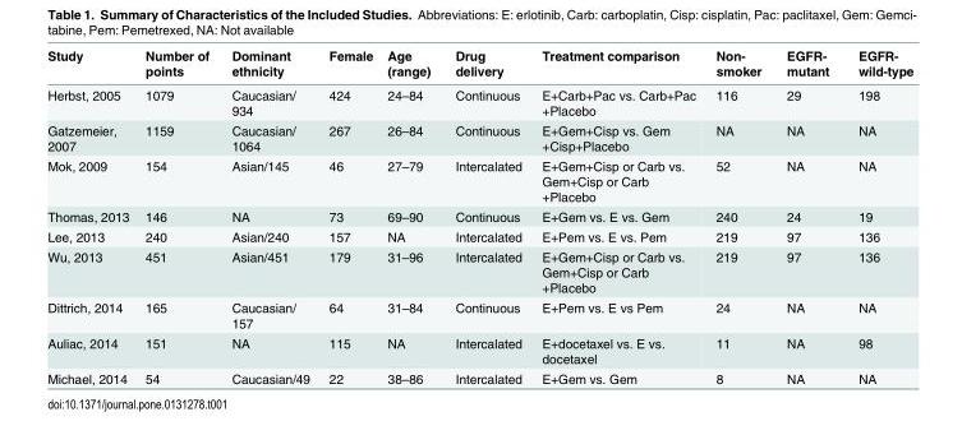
<table><thead><tr><td>Study</td><td>Number of points</td><td>Dominant ethnicity</td><td>Female</td><td>Age (range)</td><td>Drug delivery</td><td>Treatment comparison</td><td>Non- smoker</td><td>EGFR- mutant</td><td>EGFR- wild-type</td></tr></thead><tbody><tr><td>Herbst, 2005</td><td>1079</td><td>Caucasian/ 934</td><td>424</td><td>24–84</td><td>Continuous</td><td>E+Carb+Pac vs. Carb+Pac +Placebo</td><td>116</td><td>29</td><td>198</td></tr><tr><td>Gatzemeier, 2007</td><td>1159</td><td>Caucasian/ 1064</td><td>267</td><td>26–84</td><td>Continuous</td><td>E+Gem+Cisp vs. Gem +Cisp+Placebo</td><td>NA</td><td>NA</td><td>NA</td></tr><tr><td>Mok, 2009</td><td>154</td><td>Asian/145</td><td>46</td><td>27–79</td><td>Intercalated</td><td>E+Gem+Cisp or Carb vs. Gem+Cisp or Carb +Placebo</td><td>52</td><td>NA</td><td>NA</td></tr><tr><td>Thomas, 2013</td><td>146</td><td>NA</td><td>73</td><td>69–90</td><td>Continuous</td><td>E+Gem vs. E vs. Gem</td><td>240</td><td>24</td><td>19</td></tr><tr><td>Lee, 2013</td><td>240</td><td>Asian/240</td><td>157</td><td>NA</td><td>Intercalated</td><td>E+Pem vs. E vs. Pem</td><td>219</td><td>97</td><td>136</td></tr><tr><td>Wu, 2013</td><td>451</td><td>Asian/451</td><td>179</td><td>31–96</td><td>Intercalated</td><td>E+Gem+Cisp or Carb vs. Gem+Cisp or Carb +Placebo</td><td>219</td><td>97</td><td>136</td></tr><tr><td>Dittrich, 2014</td><td>165</td><td>Caucasian/ 157</td><td>64</td><td>31–84</td><td>Continuous</td><td>E+Pem vs. E vs Pem</td><td>24</td><td>NA</td><td>NA</td></tr><tr><td>Auliac, 2014</td><td>151</td><td>NA</td><td>115</td><td>NA</td><td>Intercalated</td><td>E+docetaxel vs. E vs. docetaxel</td><td>11</td><td>NA</td><td>98</td></tr><tr><td>Michael, 2014</td><td>54</td><td>Caucasian/49</td><td>22</td><td>38–86</td><td>Intercalated</td><td>E+Gem vs. Gem</td><td>8</td><td>NA</td><td>NA</td></tr></tbody></table>